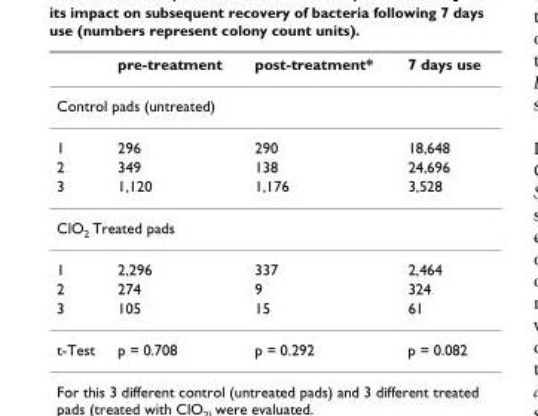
<table><thead><tr><td></td><td>pre-treatment</td><td>post-treatment*</td><td>7 days use</td></tr></thead><tbody><tr><td colspan="4">Control pads (untreated)</td></tr><tr><td>1</td><td>296</td><td>290</td><td>18,648</td></tr><tr><td>2</td><td>349</td><td>138</td><td>24,696</td></tr><tr><td>3</td><td>1,120</td><td>1,176</td><td>3,528</td></tr><tr><td colspan="4">ClO<sub>2</sub> Treated pads</td></tr><tr><td>1</td><td>2,296</td><td>337</td><td>2,464</td></tr><tr><td>2</td><td>274</td><td>9</td><td>324</td></tr><tr><td>3</td><td>105</td><td>15</td><td>61</td></tr><tr><td>t-Test</td><td>p = 0.708</td><td>p = 0.292</td><td>p = 0.082</td></tr></tbody></table>